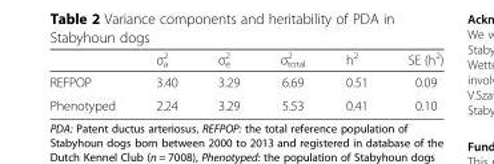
<table><thead><tr><td></td><td>σ<sup>2</sup> <sub>a</sub></td><td>σ<sup>2</sup> <sub>e</sub></td><td>σ<sup>2</sup> <sub>total</sub></td><td>h<sup>2</sup></td><td>SE (h<sup>2</sup>)</td></tr></thead><tbody><tr><td>REFPOP</td><td>3.40</td><td>3.29</td><td>6.69</td><td>0.51</td><td>0.09</td></tr><tr><td>Phenotyped</td><td>2.24</td><td>3.29</td><td>5.53</td><td>0.41</td><td>0.10</td></tr></tbody></table>